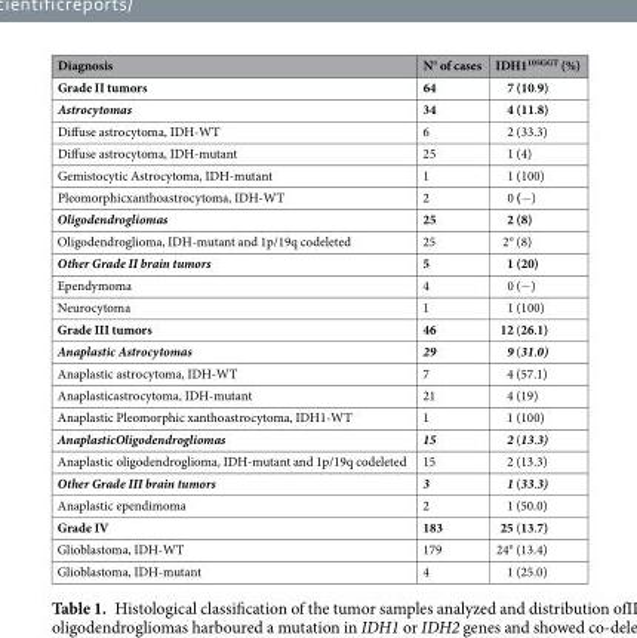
<table><thead><tr><td>Diagnosis</td><td>N° of cases</td><td>IDH1<sup>105GGT</sup> (%)</td></tr></thead><tbody><tr><td>Grade II tumors</td><td>64</td><td>7 (10.9)</td></tr><tr><td>Astrocytomas</td><td>34</td><td>4 (11.8)</td></tr><tr><td>Diffuse astrocytoma, IDH-WT</td><td>6</td><td>2 (33.3)</td></tr><tr><td>Diffuse astrocytoma, IDH-mutant</td><td>25</td><td>1 (4)</td></tr><tr><td>Gemistocytic Astrocytoma, IDH-mutant</td><td>1</td><td>1 (100)</td></tr><tr><td>Pleomorphicxanthoastrocytoma, IDH-WT</td><td>2</td><td>0 (−)</td></tr><tr><td>Oligodendrogliomas</td><td>25</td><td>2 (8)</td></tr><tr><td>Oligodendroglioma, IDH-mutant and 1p/19q codeleted</td><td>25</td><td>2° (8)</td></tr><tr><td>Other Grade II brain tumors</td><td>5</td><td>1 (20)</td></tr><tr><td>Ependymoma</td><td>4</td><td>0 (−)</td></tr><tr><td>Neurocytoma</td><td>1</td><td>1 (100)</td></tr><tr><td>Grade III tumors</td><td>46</td><td>12 (26.1)</td></tr><tr><td>Anaplastic Astrocytomas</td><td>29</td><td>9 (31.0)</td></tr><tr><td>Anaplastic astrocytoma, IDH-WT</td><td>7</td><td>4 (57.1)</td></tr><tr><td>Anaplasticastrocytoma, IDH-mutant</td><td>21</td><td>4 (19)</td></tr><tr><td>Anaplastic Pleomorphic xanthoastrocytoma, IDH1-WT</td><td>1</td><td>1 (100)</td></tr><tr><td>AnaplasticOligodendrogliomas</td><td>15</td><td>2 (13.3)</td></tr><tr><td>Anaplastic oligodendroglioma, IDH-mutant and 1p/19q codeleted</td><td>15</td><td>2 (13.3)</td></tr><tr><td>Other Grade III brain tumors</td><td>3</td><td>1 (33.3)</td></tr><tr><td>Anaplastic ependimoma</td><td>2</td><td>1 (50.0)</td></tr><tr><td>Grade IV</td><td>183</td><td>25 (13.7)</td></tr><tr><td>Glioblastoma, IDH-WT</td><td>179</td><td>24° (13.4)</td></tr><tr><td>Glioblastoma, IDH-mutant</td><td>4</td><td>1 (25.0)</td></tr></tbody></table>